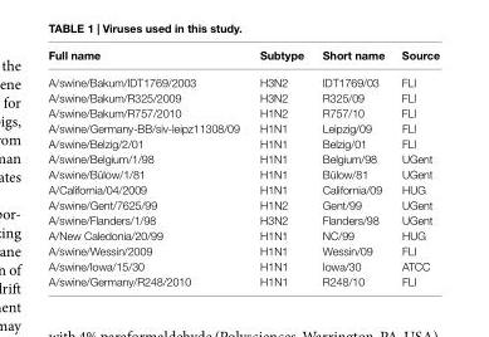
<table><thead><tr><td>Full name</td><td>subtype</td><td>short name</td><td>source</td></tr></thead><tbody><tr><td>A/swine/Bakum/IDT1769/2003</td><td>H3N2</td><td>IDT1769/03</td><td>FLI</td></tr><tr><td>A/swine/Bakum/R325/2009</td><td>H3N2</td><td>R325/09</td><td>FLI</td></tr><tr><td>A/swine/Bakum/R757/2010</td><td>H1N2</td><td>R757/10</td><td>FLI</td></tr><tr><td>A/swine/Germany-BB/siv-leipz11308/09</td><td>H1N1</td><td>Leipzig/09</td><td>FLI</td></tr><tr><td>A/swine/Belzig/2/01</td><td>H1N1</td><td>Belzig/01</td><td>FLI</td></tr><tr><td>A/swine/Belgium/1/98</td><td>H1N1</td><td>Belgium/98</td><td>UGent</td></tr><tr><td>A/swine/Bülow/1/81</td><td>H1N1</td><td>Bülow/81</td><td>UGent</td></tr><tr><td>A/California/04/2009</td><td>H1N1</td><td>California/09</td><td>HUG</td></tr><tr><td>A/swine/Gent/7625/99</td><td>H1N2</td><td>Gent/99</td><td>UGent</td></tr><tr><td>A/swine/Flanders/1/98</td><td>H3N2</td><td>Flanders/98</td><td>UGent</td></tr><tr><td>A/New Caledonia/20/99</td><td>H1N1</td><td>NC/99</td><td>HUG</td></tr><tr><td>A/swine/Wessin/2009</td><td>H1N1</td><td>Wessin/09</td><td>FLI</td></tr><tr><td>A/swine/Iowa/15/30</td><td>H1N1</td><td>Iowa/30</td><td>ATCC</td></tr><tr><td>A/swine/Germany/R248/2010</td><td>H1N1</td><td>R248/10</td><td>FLI</td></tr></tbody></table>